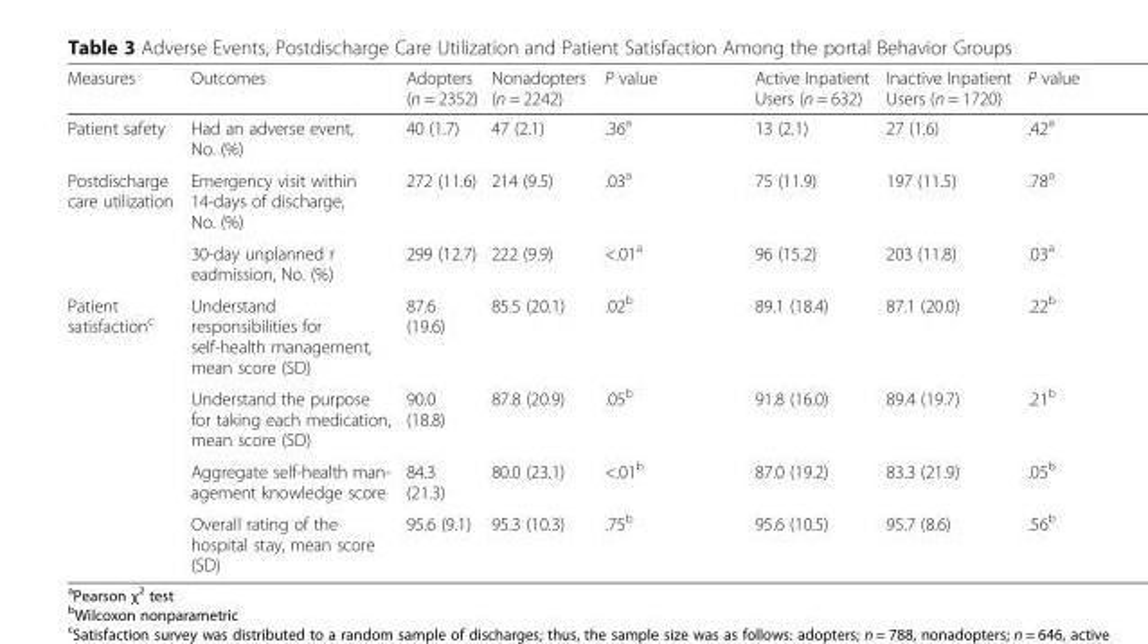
<table><thead><tr><td>Measures</td><td>Outcomes</td><td>Adopters (n = 2352)</td><td>Nonadopters (n = 2242)</td><td>P value</td><td>Active Inpatient Users (n = 632)</td><td>Inactive Inpatient Users (n = 1720)</td><td>P value</td></tr></thead><tbody><tr><td>Patient safety</td><td>Had an adverse event, No. (%)</td><td>40 (1.7)</td><td>47 (2.1)</td><td>.36<sup>a</sup></td><td>13 (2.1)</td><td>27 (1.6)</td><td>.42<sup>a</sup></td></tr><tr><td rowspan="2">Postdischarge care utilization</td><td>Emergency visit within 14-days of discharge, No. (%)</td><td>272 (11.6)</td><td>214 (9.5)</td><td>.03<sup>a</sup></td><td>75 (11.9)</td><td>197 (11.5)</td><td>.78<sup>a</sup></td></tr><tr><td>30-day unplanned r eadmission, No. (%)</td><td>299 (12.7)</td><td>222 (9.9)</td><td>&lt;.01<sup>a</sup></td><td>96 (15.2)</td><td>203 (11.8)</td><td>.03<sup>a</sup></td></tr><tr><td rowspan="4">Patient satisfaction<sup>c</sup></td><td>Understand responsibilities for self-health management, mean score (SD)</td><td>87.6 (19.6)</td><td>85.5 (20.1)</td><td>.02<sup>b</sup></td><td>89.1 (18.4)</td><td>87.1 (20.0)</td><td>.22<sup>b</sup></td></tr><tr><td>Understand the purpose for taking each medication, mean score (SD)</td><td>90.0 (18.8)</td><td>87.8 (20.9)</td><td>.05<sup>b</sup></td><td>91.8 (16.0)</td><td>89.4 (19.7)</td><td>.21<sup>b</sup></td></tr><tr><td>Aggregate self-health man- agement knowledge score</td><td>84.3 (21.3)</td><td>80.0 (23.1)</td><td>&lt;.01<sup>b</sup></td><td>87.0 (19.2)</td><td>83.3 (21.9)</td><td>.05<sup>b</sup></td></tr><tr><td>Overall rating of the hospital stay, mean score (SD)</td><td>95.6 (9.1)</td><td>95.3 (10.3)</td><td>.75<sup>b</sup></td><td>95.6 (10.5)</td><td>95.7 (8.6)</td><td>.56<sup>b</sup></td></tr></tbody></table>